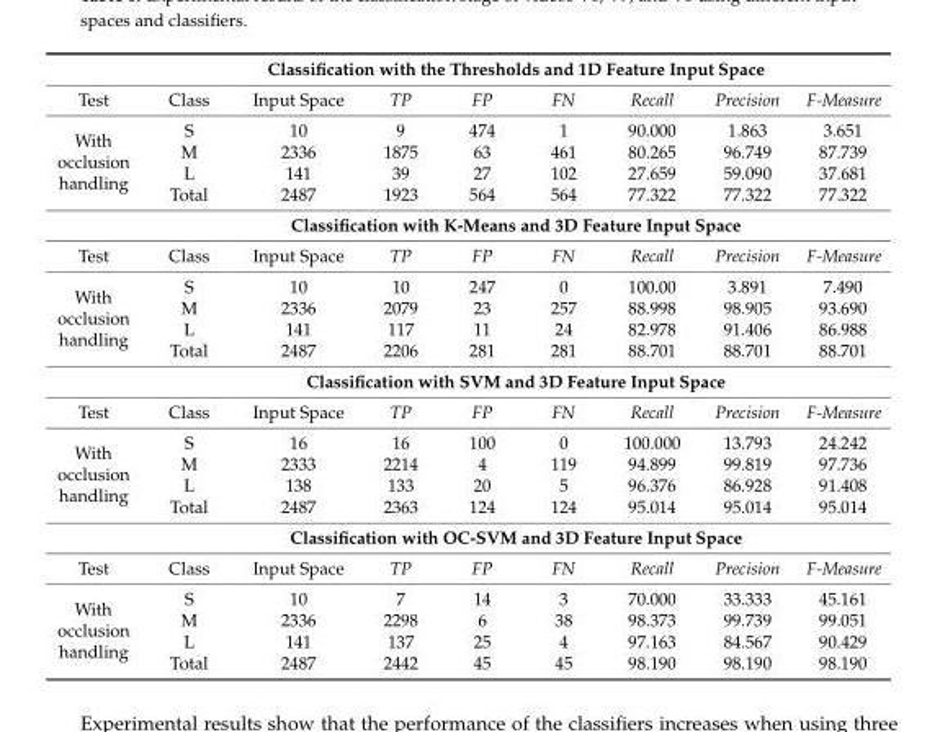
<table><thead><tr><td rowspan="2">Test</td><td colspan="8">Classification with the Thresholds and 1D Feature Input Space</td></tr><tr><td>Class</td><td>Input Space</td><td>TP</td><td>FP</td><td>FN</td><td>Recall</td><td>Precision</td><td>F-Measure</td></tr></thead><tbody><tr><td rowspan="5">With occlusion handling</td><td>S</td><td>10</td><td>9</td><td>474</td><td>1</td><td>90.000</td><td>1.863</td><td>3.651</td></tr><tr><td>M</td><td>2336</td><td>1875</td><td>63</td><td>461</td><td>80.265</td><td>96.749</td><td>87.739</td></tr><tr><td>L</td><td>141</td><td>39</td><td>27</td><td>102</td><td>27.659</td><td>59.090</td><td>37.681</td></tr><tr><td>Total</td><td>2487</td><td>1923</td><td>564</td><td>564</td><td>77.322</td><td>77.322</td><td>77.322</td></tr><tr><td colspan="8">Classification with K-Means and 3D Feature Input Space</td></tr><tr><td>Test</td><td>Class</td><td>Input Space</td><td>TP</td><td>FP</td><td>FN</td><td>Recall</td><td>Precision</td><td>F-Measure</td></tr><tr><td rowspan="5">With occlusion handling</td><td>S</td><td>10</td><td>10</td><td>247</td><td>0</td><td>100.00</td><td>3.891</td><td>7.490</td></tr><tr><td>M</td><td>2336</td><td>2079</td><td>23</td><td>257</td><td>88.998</td><td>98.905</td><td>93.690</td></tr><tr><td>L</td><td>141</td><td>117</td><td>11</td><td>24</td><td>82.978</td><td>91.406</td><td>86.988</td></tr><tr><td>Total</td><td>2487</td><td>2206</td><td>281</td><td>281</td><td>88.701</td><td>88.701</td><td>88.701</td></tr><tr><td colspan="8">Classification with SVM and 3D Feature Input Space</td></tr><tr><td>Test</td><td>Class</td><td>Input Space</td><td>TP</td><td>FP</td><td>FN</td><td>Recall</td><td>Precision</td><td>F-Measure</td></tr><tr><td rowspan="5">With occlusion handling</td><td>S</td><td>16</td><td>16</td><td>100</td><td>0</td><td>100.000</td><td>13.793</td><td>24.242</td></tr><tr><td>M</td><td>2333</td><td>2214</td><td>4</td><td>119</td><td>94.899</td><td>99.819</td><td>97.736</td></tr><tr><td>L</td><td>138</td><td>133</td><td>20</td><td>5</td><td>96.376</td><td>86.928</td><td>91.408</td></tr><tr><td>Total</td><td>2487</td><td>2363</td><td>124</td><td>124</td><td>95.014</td><td>95.014</td><td>95.014</td></tr><tr><td colspan="8">Classification with OC-SVM and 3D Feature Input Space</td></tr><tr><td>Test</td><td>Class</td><td>Input Space</td><td>TP</td><td>FP</td><td>FN</td><td>Recall</td><td>Precision</td><td>F-Measure</td></tr><tr><td rowspan="4">With occlusion handling</td><td>S</td><td>10</td><td>7</td><td>14</td><td>3</td><td>70.000</td><td>33.333</td><td>45.161</td></tr><tr><td>M</td><td>2336</td><td>2298</td><td>6</td><td>38</td><td>98.373</td><td>99.739</td><td>99.051</td></tr><tr><td>L</td><td>141</td><td>137</td><td>25</td><td>4</td><td>97.163</td><td>84.567</td><td>90.429</td></tr><tr><td>Total</td><td>2487</td><td>2442</td><td>45</td><td>45</td><td>98.190</td><td>98.190</td><td>98.190</td></tr></tbody></table>